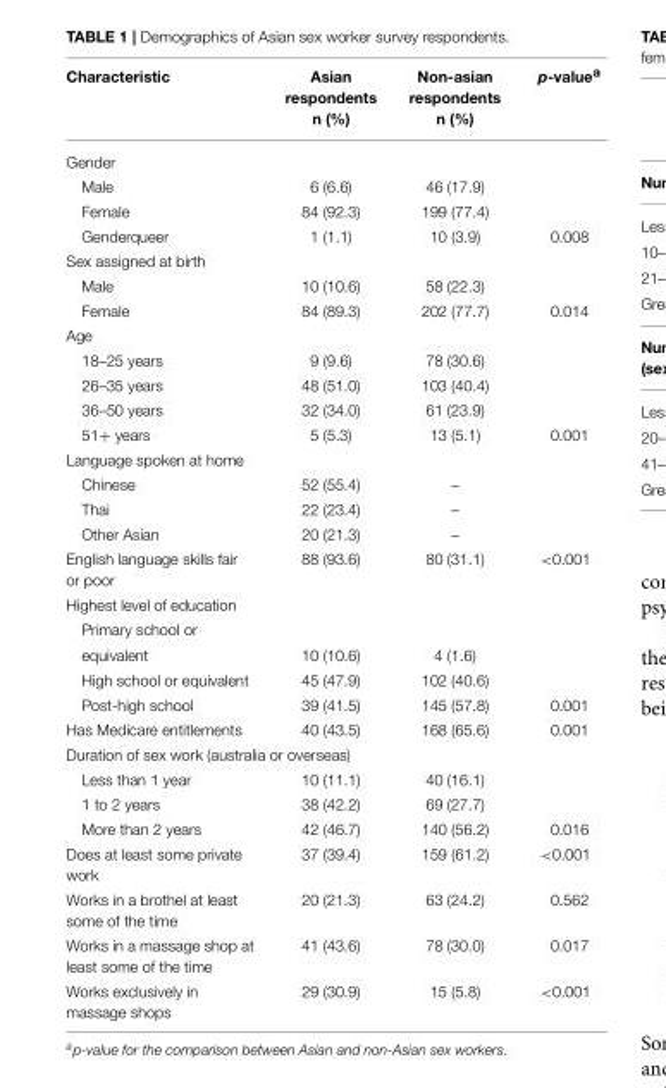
<table><thead><tr><td>Characteristic</td><td>Asian respondents n (%)</td><td>Non-asian respondents n (%)</td><td>p-value<sup>a</sup></td></tr></thead><tbody><tr><td colspan="4">Gender</td></tr><tr><td>Male</td><td>6 (6.6)</td><td>46 (17.9)</td><td></td></tr><tr><td>Female</td><td>84 (92.3)</td><td>199 (77.4)</td><td></td></tr><tr><td>Genderqueer</td><td>1 (1.1)</td><td>10 (3.9)</td><td>0.008</td></tr><tr><td colspan="4">Sex assigned at birth</td></tr><tr><td>Male</td><td>10 (10.6)</td><td>58 (22.3)</td><td></td></tr><tr><td>Female</td><td>84 (89.3)</td><td>202 (77.7)</td><td>0.014</td></tr><tr><td colspan="4">Age</td></tr><tr><td>18–25 years</td><td>9 (9.6)</td><td>78 (30.6)</td><td></td></tr><tr><td>26–35 years</td><td>48 (51.0)</td><td>103 (40.4)</td><td></td></tr><tr><td>36–50 years</td><td>32 (34.0)</td><td>61 (23.9)</td><td></td></tr><tr><td>51+ years</td><td>5 (5.3)</td><td>13 (5.1)</td><td>0.001</td></tr><tr><td colspan="4">Language spoken at home</td></tr><tr><td>Chinese</td><td>52 (55.4)</td><td>–</td><td></td></tr><tr><td>Thai</td><td>22 (23.4)</td><td>–</td><td></td></tr><tr><td>Other Asian</td><td>20 (21.3)</td><td>–</td><td></td></tr><tr><td>English language skills fair or poor</td><td>88 (93.6)</td><td>80 (31.1)</td><td>&lt;0.001</td></tr><tr><td colspan="4">Highest level of education</td></tr><tr><td colspan="4">Primary school or</td></tr><tr><td>equivalent</td><td>10 (10.6)</td><td>4 (1.6)</td><td></td></tr><tr><td>High school or equivalent</td><td>45 (47.9)</td><td>102 (40.6)</td><td></td></tr><tr><td>Post-high school</td><td>39 (41.5)</td><td>145 (57.8)</td><td>0.001</td></tr><tr><td>Has Medicare entitlements</td><td>40 (43.5)</td><td>168 (65.6)</td><td>0.001</td></tr><tr><td colspan="4">Duration of sex work (australia or overseas)</td></tr><tr><td>Less than 1 year</td><td>10 (11.1)</td><td>40 (16.1)</td><td></td></tr><tr><td>1 to 2 years</td><td>38 (42.2)</td><td>69 (27.7)</td><td></td></tr><tr><td>More than 2 years</td><td>42 (46.7)</td><td>140 (56.2)</td><td>0.016</td></tr><tr><td>Does at least some private work</td><td>37 (39.4)</td><td>159 (61.2)</td><td>&lt;0.001</td></tr><tr><td>Works in a brothel at least some of the time</td><td>20 (21.3)</td><td>63 (24.2)</td><td>0.562</td></tr><tr><td>Works in a massage shop at least some of the time</td><td>41 (43.6)</td><td>78 (30.0)</td><td>0.017</td></tr><tr><td>Works exclusively in massage shops</td><td>29 (30.9)</td><td>15 (5.8)</td><td>&lt;0.001</td></tr></tbody></table>